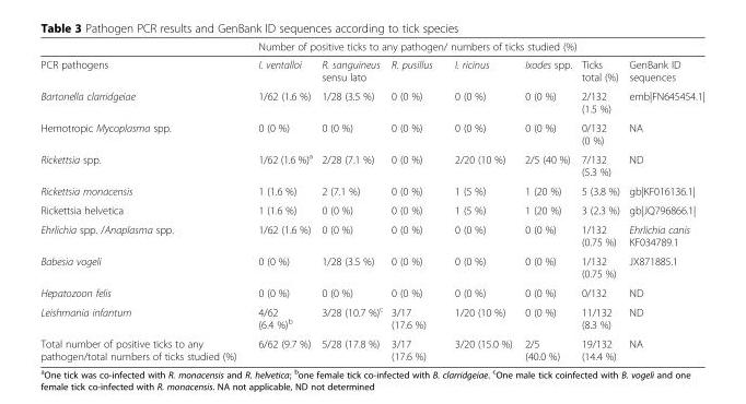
<table><thead><tr><td rowspan="2">PCR pathogens</td><td colspan="6">Number of positive ticks to any pathogen/ numbers of ticks studied (%)</td><td rowspan="2">GenBank ID sequences</td></tr><tr><td>I. ventalloi</td><td>R. sanguineus sensu lato</td><td>R. pusillus</td><td>I. ricinus</td><td>Ixodes spp.</td><td>Ticks total (%)</td></tr></thead><tbody><tr><td>Bartonella clarridgeiae</td><td>1/62 (1.6 %)</td><td>1/28 (3.5 %)</td><td>0 (0 %)</td><td>0 (0 %)</td><td>0 (0 %)</td><td>2/132 (1.5 %)</td><td>emb|FN645454.1|</td></tr><tr><td>Hemotropic Mycoplasma spp.</td><td>0 (0 %)</td><td>0 (0 %)</td><td>0 (0 %)</td><td>0 (0 %)</td><td>0 (0 %)</td><td>0/132 (0 %)</td><td>NA</td></tr><tr><td>Rickettsia spp.</td><td>1/62 (1.6 %)<sup>a</sup></td><td>2/28 (7.1 %)</td><td>0 (0 %)</td><td>2/20 (10 %)</td><td>2/5 (40 %)</td><td>7/132 (5.3 %)</td><td>ND</td></tr><tr><td>Rickettsia monacensis</td><td>1 (1.6 %)</td><td>2 (7.1 %)</td><td>0 (0 %)</td><td>1 (5 %)</td><td>1 (20 %)</td><td>5 (3.8 %)</td><td>gb|KF016136.1|</td></tr><tr><td>Rickettsia helvetica</td><td>1 (1.6 %)</td><td>0 (0 %)</td><td>0 (0 %)</td><td>1 (5 %)</td><td>1 (20 %)</td><td>3 (2.3 %)</td><td>gb|JQ796866.1|</td></tr><tr><td>Ehrlichia spp. /Anaplasma spp.</td><td>1/62 (1.6 %)</td><td>0 (0 %)</td><td>0 (0 %)</td><td>0 (0 %)</td><td>0 (0 %)</td><td>1/132 (0.75 %)</td><td>Ehrlichia canis KF034789.1</td></tr><tr><td>Babesia vogeli</td><td>0 (0 %)</td><td>1/28 (3.5 %)</td><td>0 (0 %)</td><td>0 (0 %)</td><td>0 (0 %)</td><td>1/132 (0.75 %)</td><td>JX871885.1</td></tr><tr><td>Hepatozoon felis</td><td>0 (0 %)</td><td>0 (0 %)</td><td>0 (0 %)</td><td>0 (0 %)</td><td>0 (0 %)</td><td>0/132</td><td>ND</td></tr><tr><td>Leishmania infantum</td><td>4/62 (6.4 %)<sup>b</sup></td><td>3/28 (10.7 %)<sup>c</sup></td><td>3/17 (17.6 %)</td><td>1/20 (10 %)</td><td>0 (0 %)</td><td>11/132 (8.3 %)</td><td>ND</td></tr><tr><td>Total number of positive ticks to any pathogen/total numbers of ticks studied (%)</td><td>6/62 (9.7 %)</td><td>5/28 (17.8 %)</td><td>3/17 (17.6 %)</td><td>3/20 (15.0 %)</td><td>2/5 (40.0 %)</td><td>19/132 (14.4 %)</td><td>NA</td></tr></tbody></table>